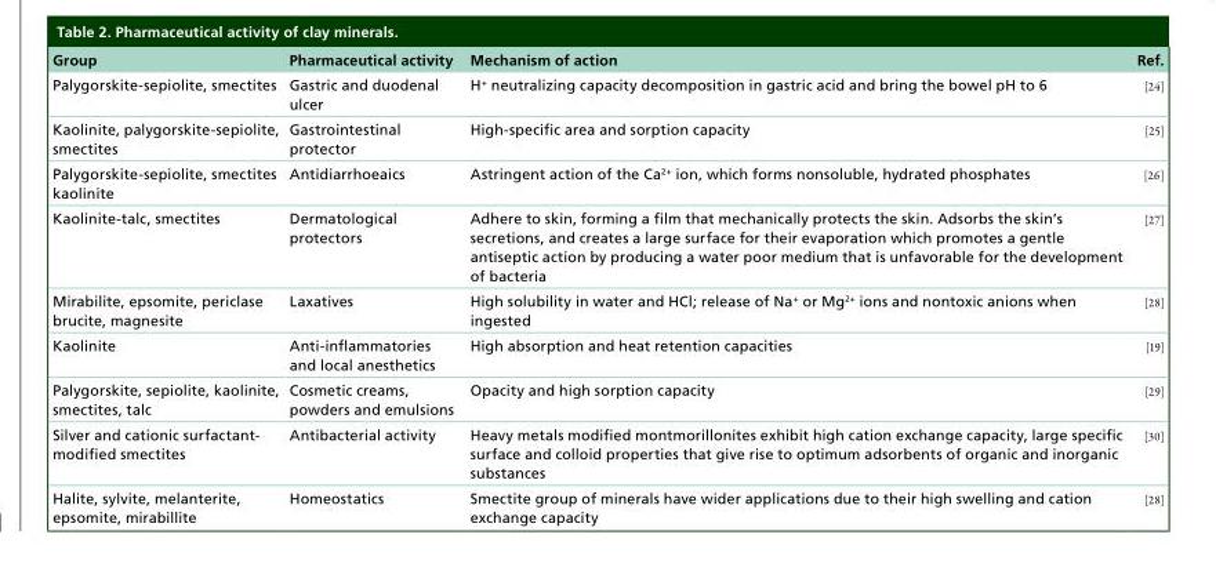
<table><thead><tr><td>Group</td><td>Pharmaceutical activity</td><td>Mechanism of action</td><td>Ref.</td></tr></thead><tbody><tr><td>Palygorskite-sepiolite, smectites</td><td>Gastric and duodenal ulcer</td><td>H<sup>+</sup> neutralizing capacity decomposition in gastric acid and bring the bowel pH to 6</td><td>[24]</td></tr><tr><td>Kaolinite, palygorskite-sepiolite, smectites</td><td>Gastrointestinal protector</td><td>High-specific area and sorption capacity</td><td>[25]</td></tr><tr><td>Palygorskite-sepiolite, smectites kaolinite</td><td>Antidiarrhoeaics</td><td>Astringent action of the Ca<sup>2+</sup> ion, which forms nonsoluble, hydrated phosphates</td><td>[26]</td></tr><tr><td>Kaolinite-talc, smectites</td><td>Dermatological protectors</td><td>Adhere to skin, forming a film that mechanically protects the skin. Adsorbs the skin’s secretions, and creates a large surface for their evaporation which promotes a gentle antiseptic action by producing a water poor medium that is unfavorable for the development of bacteria</td><td>[27]</td></tr><tr><td>Mirabilite, epsomite, periclase brucite, magnesite</td><td>Laxatives</td><td>High solubility in water and HCl; release of Na<sup>+</sup> or Mg<sup>2+</sup> ions and nontoxic anions when ingested</td><td>[28]</td></tr><tr><td>Kaolinite</td><td>Anti-inflammatories and local anesthetics</td><td>High absorption and heat retention capacities</td><td>[19]</td></tr><tr><td>Palygorskite, sepiolite, kaolinite, smectites, talc</td><td>Cosmetic creams, powders and emulsions</td><td>Opacity and high sorption capacity</td><td>[29]</td></tr><tr><td>Silver and cationic surfactant- modified smectites</td><td>Antibacterial activity</td><td>Heavy metals modified montmorillonites exhibit high cation exchange capacity, large specific surface and colloid properties that give rise to optimum adsorbents of organic and inorganic substances</td><td>[30]</td></tr><tr><td>Halite, sylvite, melanterite, epsomite, mirabillite</td><td>Homeostatics</td><td>Smectite group of minerals have wider applications due to their high swelling and cation exchange capacity</td><td>[28]</td></tr></tbody></table>